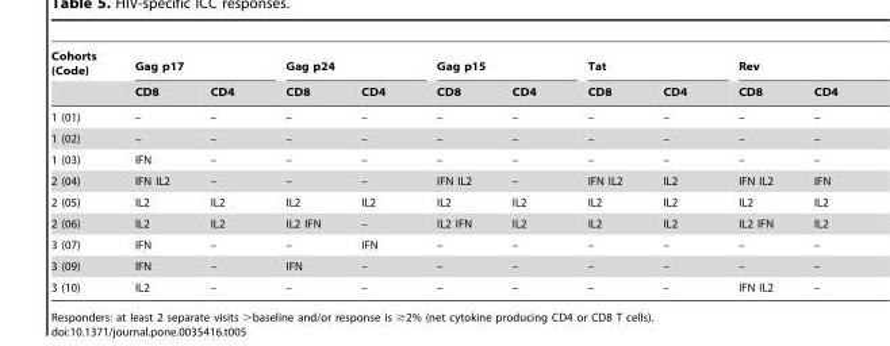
<table><thead><tr><td rowspan="2">Cohorts (Code)</td><td colspan="2">Gag p17</td><td colspan="2">Gag p24</td><td colspan="2">Gag p15</td><td colspan="2">Tat</td><td colspan="2">Rev</td></tr><tr><td>CD8</td><td>CD4</td><td>CD8</td><td>CD4</td><td>CD8</td><td>CD4</td><td>CD8</td><td>CD4</td><td>CD8</td><td>CD4</td></tr></thead><tbody><tr><td>1 (01)</td><td>–</td><td>–</td><td>–</td><td>–</td><td>–</td><td>–</td><td>–</td><td>–</td><td>–</td><td>–</td></tr><tr><td>1 (02)</td><td>–</td><td>–</td><td>–</td><td>–</td><td>–</td><td>–</td><td>–</td><td>–</td><td>–</td><td>–</td></tr><tr><td>1 (03)</td><td>IFN</td><td>–</td><td>–</td><td>–</td><td>–</td><td>–</td><td>–</td><td>–</td><td>–</td><td>–</td></tr><tr><td>2 (04)</td><td>IFN IL2</td><td>–</td><td>–</td><td>–</td><td>IFN IL2</td><td>–</td><td>IFN IL2</td><td>IL2</td><td>IFN IL2</td><td>IFN</td></tr><tr><td>2 (05)</td><td>IL2</td><td>IL2</td><td>IL2</td><td>IL2</td><td>IL2</td><td>IL2</td><td>IL2</td><td>IL2</td><td>IL2</td><td>IL2</td></tr><tr><td>2 (06)</td><td>IL2</td><td>IL2</td><td>IL2 IFN</td><td>–</td><td>IL2 IFN</td><td>IL2</td><td>IL2</td><td>IL2</td><td>IL2 IFN</td><td>IL2</td></tr><tr><td>3 (07)</td><td>IFN</td><td>–</td><td>–</td><td>IFN</td><td>–</td><td>–</td><td>–</td><td>–</td><td>–</td><td>–</td></tr><tr><td>3 (09)</td><td>IFN</td><td>–</td><td>IFN</td><td>–</td><td>–</td><td>–</td><td>–</td><td>–</td><td>–</td><td>–</td></tr><tr><td>3 (10)</td><td>IL2</td><td>–</td><td>–</td><td>–</td><td>–</td><td>–</td><td>–</td><td>–</td><td>IFN IL2</td><td>–</td></tr></tbody></table>